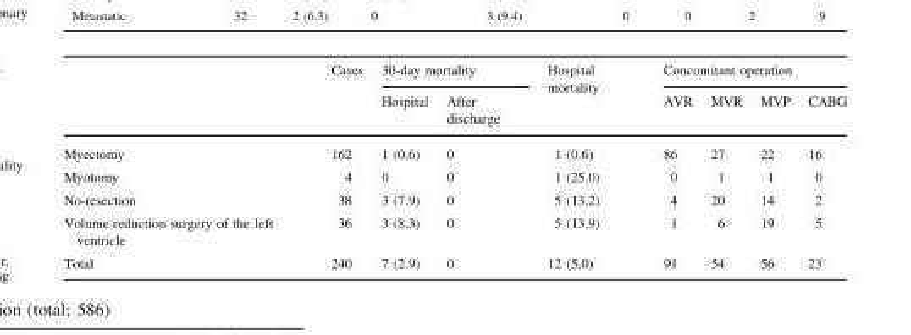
<table><thead><tr><td rowspan="2"></td><td rowspan="2">Cases</td><td colspan="2">30-day mortality</td><td rowspan="2">Hospital mortality</td><td colspan="4">Concomitant operation</td></tr><tr><td>Hospital</td><td>After discharge</td><td>AVR</td><td>MVR</td><td>MVP</td><td>CABG</td></tr></thead><tbody><tr><td>Myectomy</td><td>162</td><td>1 (0.6)</td><td>0</td><td>1 (0.6)</td><td>86</td><td>27</td><td>22</td><td>16</td></tr><tr><td>Myotomy</td><td>4</td><td>0</td><td>0</td><td>1 (25.0)</td><td>0</td><td>1</td><td>1</td><td>0</td></tr><tr><td>No-resection</td><td>38</td><td>3 (7.9)</td><td>0</td><td>5 (13.2)</td><td>4</td><td>20</td><td>14</td><td>2</td></tr><tr><td>Volume reduction surgery of the left ventricle</td><td>36</td><td>3 (8.3)</td><td>0</td><td>5 (13.9)</td><td>1</td><td>6</td><td>19</td><td>5</td></tr><tr><td>Total</td><td>240</td><td>7 (2.9)</td><td>0</td><td>12 (5.0)</td><td>91</td><td>54</td><td>56</td><td>23</td></tr></tbody></table>